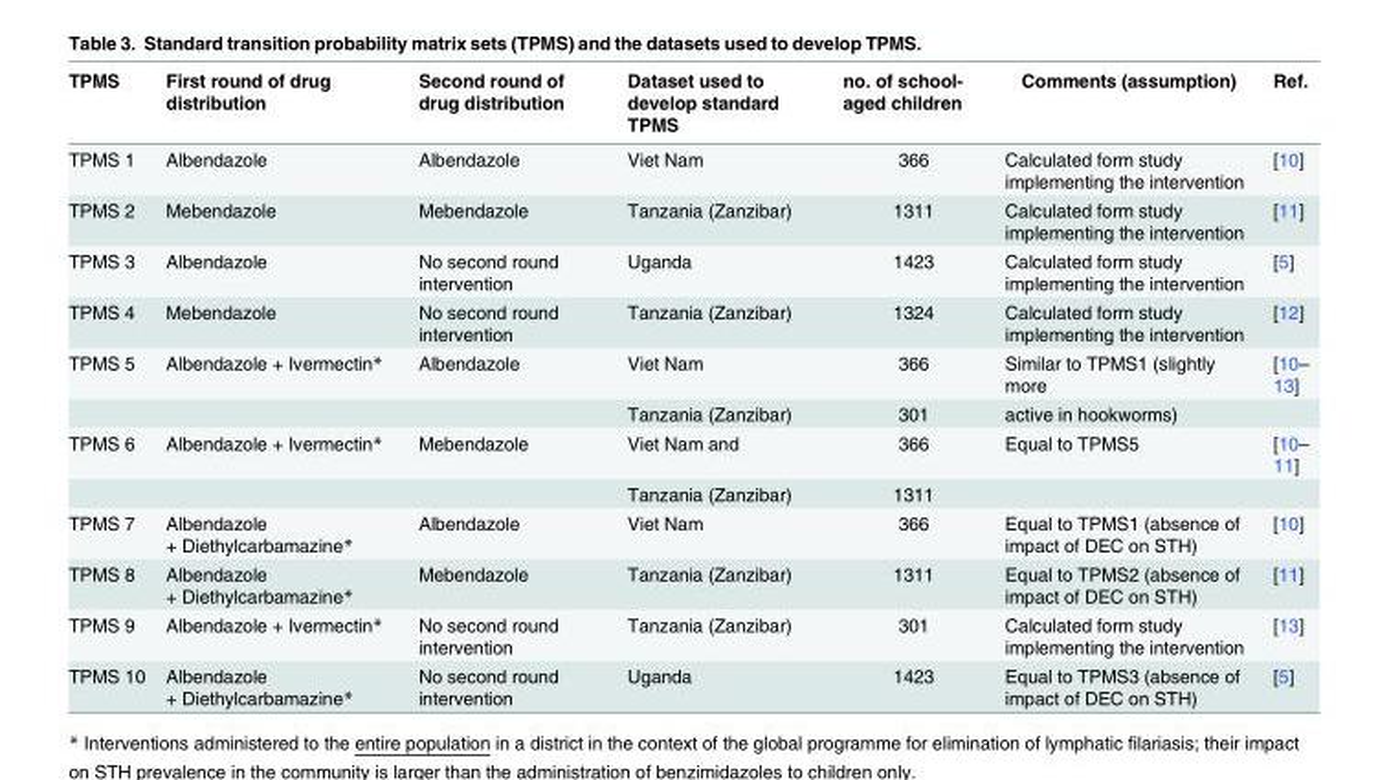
<table><thead><tr><td>TPMS</td><td>First round of drug distribution</td><td>Second round of drug distribution</td><td>Dataset used to develop standard TPMS</td><td>no. of school- aged children</td><td>Comments (assumption)</td><td>Ref.</td></tr></thead><tbody><tr><td>TPMS 1</td><td>Albendazole</td><td>Albendazole</td><td>Viet Nam</td><td>366</td><td>Calculated form study implementing the intervention</td><td>[10]</td></tr><tr><td>TPMS 2</td><td>Mebendazole</td><td>Mebendazole</td><td>Tanzania (Zanzibar)</td><td>1311</td><td>Calculated form study implementing the intervention</td><td>[11]</td></tr><tr><td>TPMS 3</td><td>Albendazole</td><td>No second round intervention</td><td>Uganda</td><td>1423</td><td>Calculated form study implementing the intervention</td><td>[5]</td></tr><tr><td>TPMS 4</td><td>Mebendazole</td><td>No second round intervention</td><td>Tanzania (Zanzibar)</td><td>1324</td><td>Calculated form study implementing the intervention</td><td>[12]</td></tr><tr><td rowspan="2">TPMS 5</td><td>Albendazole + Ivermectin*</td><td>Albendazole</td><td>Viet Nam</td><td>366</td><td>Similar to TPMS1 (slightly more</td><td>[10– 13]</td></tr><tr><td></td><td></td><td>Tanzania (Zanzibar)</td><td>301</td><td>active in hookworms)</td><td></td></tr><tr><td rowspan="2">TPMS 6</td><td>Albendazole + Ivermectin*</td><td>Mebendazole</td><td>Viet Nam and</td><td>366</td><td>Equal to TPMS5</td><td>[10– 11]</td></tr><tr><td></td><td></td><td>Tanzania (Zanzibar)</td><td>1311</td><td></td><td></td></tr><tr><td>TPMS 7</td><td>Albendazole + Diethylcarbamazine*</td><td>Albendazole</td><td>Viet Nam</td><td>366</td><td>Equal to TPMS1 (absence of impact of DEC on STH)</td><td>[10]</td></tr><tr><td>TPMS 8</td><td>Albendazole + Diethylcarbamazine*</td><td>Mebendazole</td><td>Tanzania (Zanzibar)</td><td>1311</td><td>Equal to TPMS2 (absence of impact of DEC on STH)</td><td>[11]</td></tr><tr><td>TPMS 9</td><td>Albendazole + Ivermectin*</td><td>No second round intervention</td><td>Tanzania (Zanzibar)</td><td>301</td><td>Calculated form study implementing the intervention</td><td>[13]</td></tr><tr><td>TPMS 10</td><td>Albendazole + Diethylcarbamazine*</td><td>No second round intervention</td><td>Uganda</td><td>1423</td><td>Equal to TPMS3 (absence of impact of DEC on STH)</td><td>[5]</td></tr></tbody></table>